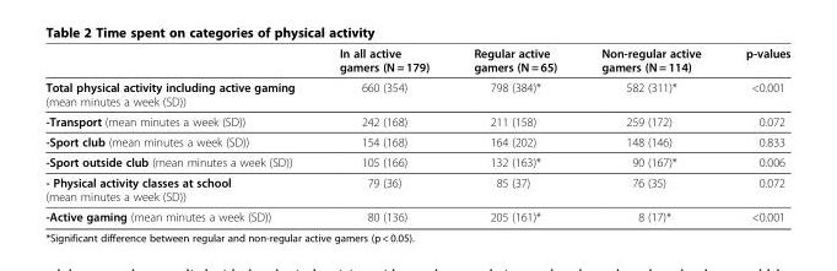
<table><thead><tr><td></td><td>In all active gamers (N = 179)</td><td>Regular active gamers (N = 65)</td><td>Non-regular active gamers (N = 114)</td><td>p-values</td></tr></thead><tbody><tr><td>Total physical activity including active gaming (mean minutes a week (SD))</td><td>660 (354)</td><td>798 (384)*</td><td>582 (311)*</td><td>&lt;0.001</td></tr><tr><td>-Transport (mean minutes a week (SD))</td><td>242 (168)</td><td>211 (158)</td><td>259 (172)</td><td>0.072</td></tr><tr><td>-Sport club (mean minutes a week (SD))</td><td>154 (168)</td><td>164 (202)</td><td>148 (146)</td><td>0.833</td></tr><tr><td>-Sport outside club (mean minutes a week (SD))</td><td>105 (166)</td><td>132 (163)*</td><td>90 (167)*</td><td>0.006</td></tr><tr><td>- Physical activity classes at school (mean minutes a week (SD))</td><td>79 (36)</td><td>85 (37)</td><td>76 (35)</td><td>0.072</td></tr><tr><td>-Active gaming (mean minutes a week (SD))</td><td>80 (136)</td><td>205 (161)*</td><td>8 (17)*</td><td>&lt;0.001</td></tr></tbody></table>